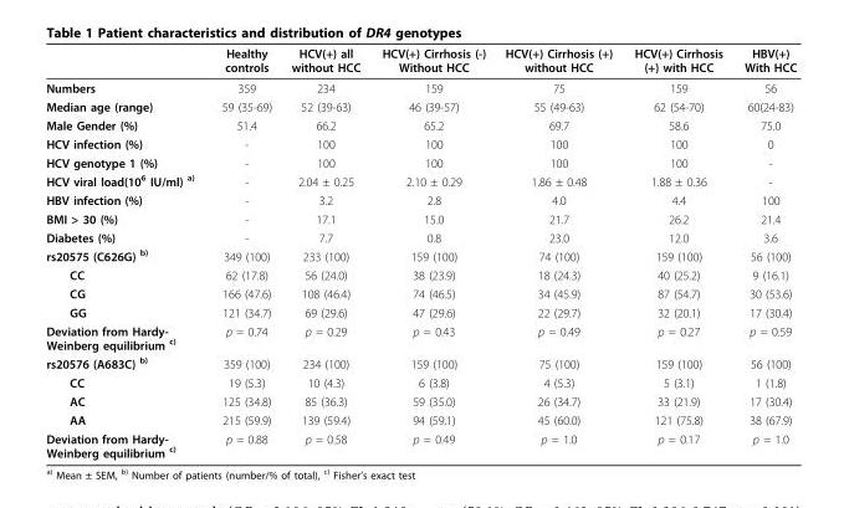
<table><thead><tr><td></td><td>Healthy controls</td><td>HCV(+) all without HCC</td><td>HCV(+) Cirrhosis (-) Without HCC</td><td>HCV(+) Cirrhosis (+) without HCC</td><td>HCV(+) Cirrhosis (+) with HCC</td><td>HBV(+) With HCC</td></tr></thead><tbody><tr><td>Numbers</td><td>359</td><td>234</td><td>159</td><td>75</td><td>159</td><td>56</td></tr><tr><td>Median age (range)</td><td>59 (35-69)</td><td>52 (39-63)</td><td>46 (39-57)</td><td>55 (49-63)</td><td>62 (54-70)</td><td>60(24-83)</td></tr><tr><td>Male Gender (%)</td><td>51.4</td><td>66.2</td><td>65.2</td><td>69.7</td><td>58.6</td><td>75.0</td></tr><tr><td>HCV infection (%)</td><td>-</td><td>100</td><td>100</td><td>100</td><td>100</td><td>0</td></tr><tr><td>HCV genotype 1 (%)</td><td>-</td><td>100</td><td>100</td><td>100</td><td>100</td><td>-</td></tr><tr><td>HCV viral load(10<sup>6</sup> IU/ml) <sup>a)</sup></td><td>-</td><td>2.04 ± 0.25</td><td>2.10 ± 0.29</td><td>1.86 ± 0.48</td><td>1.88 ± 0.36</td><td>-</td></tr><tr><td>HBV infection (%)</td><td>-</td><td>3.2</td><td>2.8</td><td>4.0</td><td>4.4</td><td>100</td></tr><tr><td>BMI &gt; 30 (%)</td><td>-</td><td>17.1</td><td>15.0</td><td>21.7</td><td>26.2</td><td>21.4</td></tr><tr><td>Diabetes (%)</td><td>-</td><td>7.7</td><td>0.8</td><td>23.0</td><td>12.0</td><td>3.6</td></tr><tr><td>rs20575 (C626G) <sup>b)</sup></td><td>349 (100)</td><td>233 (100)</td><td>159 (100)</td><td>74 (100)</td><td>159 (100)</td><td>56 (100)</td></tr><tr><td>CC</td><td>62 (17.8)</td><td>56 (24.0)</td><td>38 (23.9)</td><td>18 (24.3)</td><td>40 (25.2)</td><td>9 (16.1)</td></tr><tr><td>CG</td><td>166 (47.6)</td><td>108 (46.4)</td><td>74 (46.5)</td><td>34 (45.9)</td><td>87 (54.7)</td><td>30 (53.6)</td></tr><tr><td>GG</td><td>121 (34.7)</td><td>69 (29.6)</td><td>47 (29.6)</td><td>22 (29.7)</td><td>32 (20.1)</td><td>17 (30.4)</td></tr><tr><td>Deviation from Hardy- Weinberg equilibrium <sup>c)</sup></td><td>p = 0.74</td><td>p = 0.29</td><td>p = 0.43</td><td>p = 0.49</td><td>p = 0.27</td><td>p = 0.59</td></tr><tr><td>rs20576 (A683C) <sup>b)</sup></td><td>359 (100)</td><td>234 (100)</td><td>159 (100)</td><td>75 (100)</td><td>159 (100)</td><td>56 (100)</td></tr><tr><td>CC</td><td>19 (5.3)</td><td>10 (4.3)</td><td>6 (3.8)</td><td>4 (5.3)</td><td>5 (3.1)</td><td>1 (1.8)</td></tr><tr><td>AC</td><td>125 (34.8)</td><td>85 (36.3)</td><td>59 (35.0)</td><td>26 (34.7)</td><td>33 (21.9)</td><td>17 (30.4)</td></tr><tr><td>AA</td><td>215 (59.9)</td><td>139 (59.4)</td><td>94 (59.1)</td><td>45 (60.0)</td><td>121 (75.8)</td><td>38 (67.9)</td></tr><tr><td>Deviation from Hardy- Weinberg equilibrium <sup>c)</sup></td><td>p = 0.88</td><td>p = 0.58</td><td>p = 0.49</td><td>p = 1.0</td><td>p = 0.17</td><td>p = 1.0</td></tr></tbody></table>